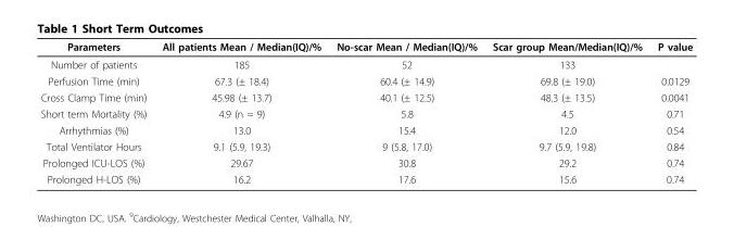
<table><thead><tr><td>Parameters</td><td>All patients Mean / Median(IQ)/%</td><td>No-scar Mean / Median(IQ)/%</td><td>Scar group Mean/Median(IQ)/%</td><td>P value</td></tr></thead><tbody><tr><td>Number of patients</td><td>185</td><td>52</td><td>133</td><td></td></tr><tr><td>Perfusion Time (min)</td><td>67.3 (± 18.4)</td><td>60.4 (± 14.9)</td><td>69.8 (± 19.0)</td><td>0.0129</td></tr><tr><td>Cross Clamp Time (min)</td><td>45.98 (± 13.7)</td><td>40.1 (± 12.5)</td><td>48.3 (± 13.5)</td><td>0.0041</td></tr><tr><td>Short term Mortality (%)</td><td>4.9 (n = 9)</td><td>5.8</td><td>4.5</td><td>0.71</td></tr><tr><td>Arrhythmias (%)</td><td>13.0</td><td>15.4</td><td>12.0</td><td>0.54</td></tr><tr><td>Total Ventilator Hours</td><td>9.1 (5.9, 19.3)</td><td>9 (5.8, 17.0)</td><td>9.7 (5.9, 19.8)</td><td>0.84</td></tr><tr><td>Prolonged ICU-LOS (%)</td><td>29.67</td><td>30.8</td><td>29.2</td><td>0.74</td></tr><tr><td>Prolonged H-LOS (%)</td><td>16.2</td><td>17.6</td><td>15.6</td><td>0.74</td></tr></tbody></table>